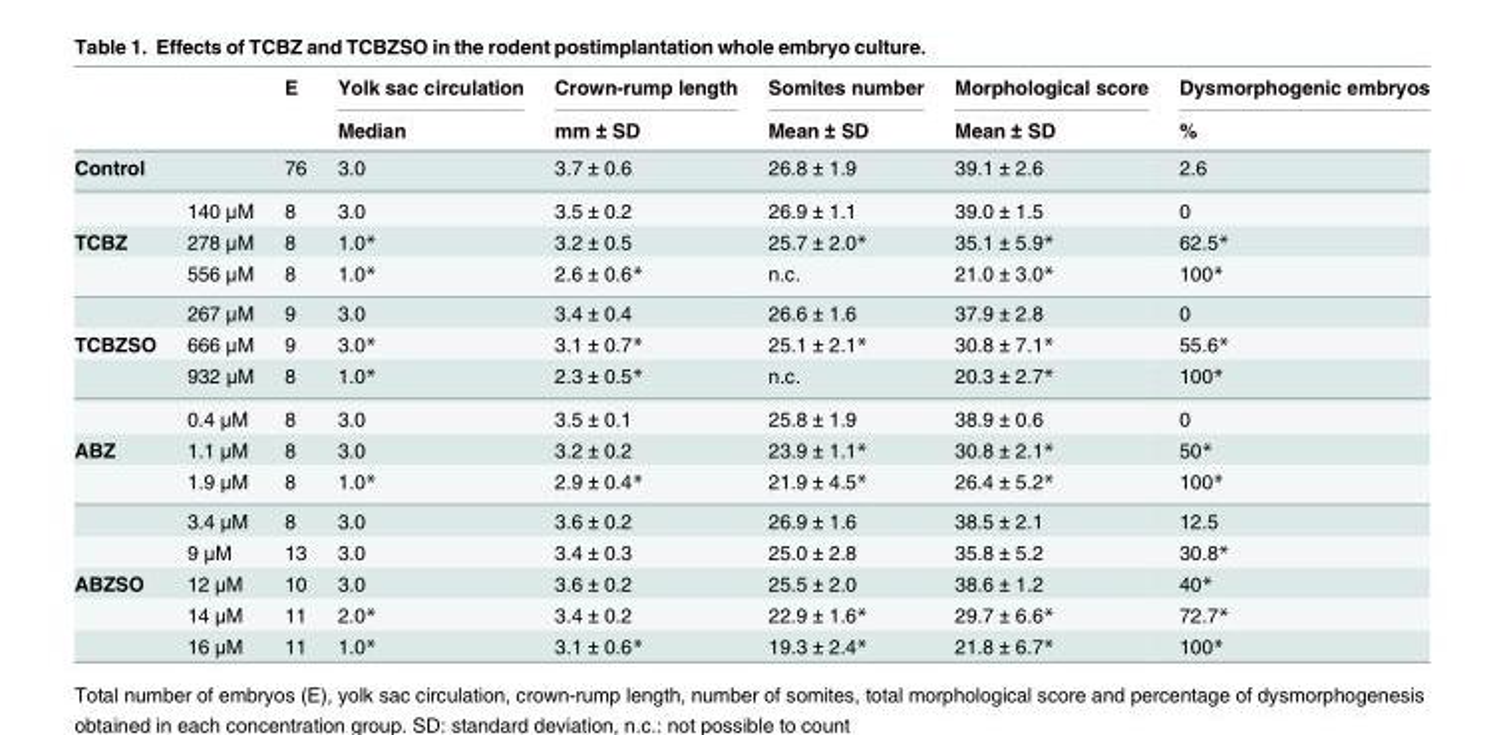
<table><thead><tr><td rowspan="2"></td><td rowspan="2"></td><td rowspan="2">E</td><td rowspan="2">Yolk sac circulation Median</td><td rowspan="2">Crown-rump length mm ± SD</td><td rowspan="2">Somites number Mean ± SD</td><td rowspan="2">Morphological score Mean ± SD</td><td rowspan="2">Dysmorphogenic embryos %</td></tr><tr></tr></thead><tbody><tr><td rowspan="2">Control</td><td></td><td>76</td><td>3.0</td><td>3.7 ± 0.6</td><td>26.8 ± 1.9</td><td>39.1 ± 2.6</td><td>2.6</td></tr><tr><td>140 μM</td><td>8</td><td>3.0</td><td>3.5 ± 0.2</td><td>26.9 ± 1.1</td><td>39.0 ± 1.5</td><td>0</td></tr><tr><td rowspan="3">TCBZ</td><td>278 μM</td><td>8</td><td>1.0*</td><td>3.2 ± 0.5</td><td>25.7 ± 2.0*</td><td>35.1 ± 5.9*</td><td>62.5*</td></tr><tr><td>556 μM</td><td>8</td><td>1.0*</td><td>2.6 ± 0.6*</td><td>n.c.</td><td>21.0 ± 3.0*</td><td>100*</td></tr><tr><td>267 μM</td><td>9</td><td>3.0</td><td>3.4 ± 0.4</td><td>26.6 ± 1.6</td><td>37.9 ± 2.8</td><td>0</td></tr><tr><td rowspan="3">TCBZSO</td><td>666 μM</td><td>9</td><td>3.0*</td><td>3.1 ± 0.7*</td><td>25.1 ± 2.1*</td><td>30.8 ± 7.1*</td><td>55.6*</td></tr><tr><td>932 μM</td><td>8</td><td>1.0*</td><td>2.3 ± 0.5*</td><td>n.c.</td><td>20.3 ± 2.7*</td><td>100*</td></tr><tr><td>0.4 μM</td><td>8</td><td>3.0</td><td>3.5 ± 0.1</td><td>25.8 ± 1.9</td><td>38.9 ± 0.6</td><td>0</td></tr><tr><td rowspan="4">ABZ</td><td>1.1 μM</td><td>8</td><td>3.0</td><td>3.2 ± 0.2</td><td>23.9 ± 1.1*</td><td>30.8 ± 2.1*</td><td>50*</td></tr><tr><td>1.9 μM</td><td>8</td><td>1.0*</td><td>2.9 ± 0.4*</td><td>21.9 ± 4.5*</td><td>26.4 ± 5.2*</td><td>100*</td></tr><tr><td>3.4 μM</td><td>8</td><td>3.0</td><td>3.6 ± 0.2</td><td>26.9 ± 1.6</td><td>38.5 ± 2.1</td><td>12.5</td></tr><tr><td>9 μM</td><td>13</td><td>3.0</td><td>3.4 ± 0.3</td><td>25.0 ± 2.8</td><td>35.8 ± 5.2</td><td>30.8*</td></tr><tr><td rowspan="3">ABZSO</td><td>12 μM</td><td>10</td><td>3.0</td><td>3.6 ± 0.2</td><td>25.5 ± 2.0</td><td>38.6 ± 1.2</td><td>40*</td></tr><tr><td>14 μM</td><td>11</td><td>2.0*</td><td>3.4 ± 0.2</td><td>22.9 ± 1.6*</td><td>29.7 ± 6.6*</td><td>72.7*</td></tr><tr><td>16 μM</td><td>11</td><td>1.0*</td><td>3.1 ± 0.6*</td><td>19.3 ± 2.4*</td><td>21.8 ± 6.7*</td><td>100*</td></tr></tbody></table>